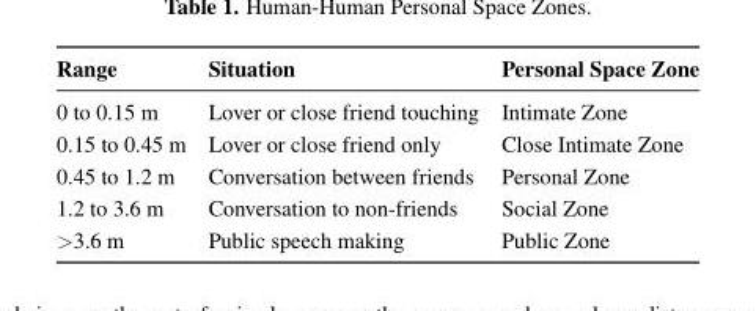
<table><thead><tr><td>Range</td><td>Situation</td><td>Personal Space Zone</td></tr></thead><tbody><tr><td>0 to 0.15 m</td><td>Lover or close friend touching</td><td>Intimate Zone</td></tr><tr><td>0.15 to 0.45 m</td><td>Lover or close friend only</td><td>Close Intimate Zone</td></tr><tr><td>0.45 to 1.2 m</td><td>Conversation between friends</td><td>Personal Zone</td></tr><tr><td>1.2 to 3.6 m</td><td>Conversation to non-friends</td><td>Social Zone</td></tr><tr><td>&gt;3.6 m</td><td>Public speech making</td><td>Public Zone</td></tr></tbody></table>